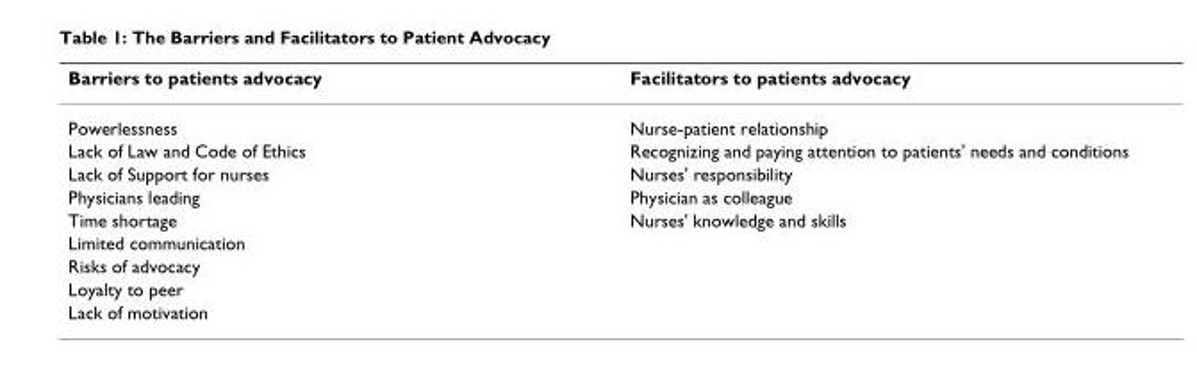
<table><thead><tr><td>Barriers to patients advocacy</td><td>Facilitators to patients advocacy</td></tr></thead><tbody><tr><td>Powerlessness</td><td>Nurse-patient relationship</td></tr><tr><td>Lack of Law and Code of Ethics</td><td>Recognizing and paying attention to patients&#x27; needs and conditions</td></tr><tr><td>Lack of Support for nurses</td><td>Nurses&#x27; responsibility</td></tr><tr><td>Physicians leading</td><td>Physician as colleague</td></tr><tr><td>Time shortage</td><td>Nurses&#x27; knowledge and skills</td></tr><tr><td colspan="2">Limited communication</td></tr><tr><td colspan="2">Risks of advocacy</td></tr><tr><td colspan="2">Loyalty to peer</td></tr><tr><td>Lack of motivation</td><td></td></tr></tbody></table>